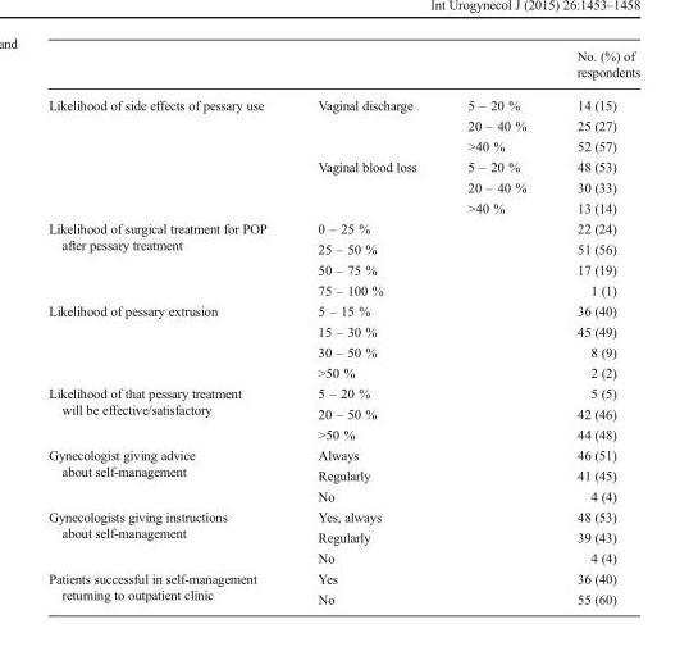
<table><thead><tr><td></td><td></td><td></td><td>No. (%) of respondents</td></tr></thead><tbody><tr><td rowspan="6">Likelihood of side effects of pessary use</td><td rowspan="3">Vaginal discharge</td><td>5 – 20 %</td><td>14 (15)</td></tr><tr><td>20 – 40 %</td><td>25 (27)</td></tr><tr><td>&gt;40 %</td><td>52 (57)</td></tr><tr><td rowspan="3">Vaginal blood loss</td><td>5 – 20 %</td><td>48 (53)</td></tr><tr><td>20 – 40 %</td><td>30 (33)</td></tr><tr><td>&gt;40 %</td><td>13 (14)</td></tr><tr><td rowspan="4">Likelihood of surgical treatment for POP after pessary treatment</td><td colspan="2">0 – 25 %</td><td>22 (24)</td></tr><tr><td colspan="2">25 – 50 %</td><td>51 (56)</td></tr><tr><td colspan="2">50 – 75 %</td><td>17 (19)</td></tr><tr><td colspan="2">75 – 100 %</td><td>1 (1)</td></tr><tr><td rowspan="4">Likelihood of pessary extrusion</td><td colspan="2">5 – 15 %</td><td>36 (40)</td></tr><tr><td colspan="2">15 – 30 %</td><td>45 (49)</td></tr><tr><td colspan="2">30 – 50 %</td><td>8 (9)</td></tr><tr><td colspan="2">&gt;50 %</td><td>2 (2)</td></tr><tr><td rowspan="3">Likelihood of that pessary treatment will be effective/satisfactory</td><td colspan="2">5 – 20 %</td><td>5 (5)</td></tr><tr><td colspan="2">20 – 50 %</td><td>42 (46)</td></tr><tr><td colspan="2">&gt;50 %</td><td>44 (48)</td></tr><tr><td rowspan="3">Gynecologist giving advice about self-management</td><td colspan="2">Always</td><td>46 (51)</td></tr><tr><td colspan="2">Regularly</td><td>41 (45)</td></tr><tr><td colspan="2">No</td><td>4 (4)</td></tr><tr><td rowspan="3">Gynecologists giving instructions about self-management</td><td colspan="2">Yes, always</td><td>48 (53)</td></tr><tr><td colspan="2">Regularly</td><td>39 (43)</td></tr><tr><td colspan="2">No</td><td>4 (4)</td></tr><tr><td rowspan="2">Patients successful in self-management returning to outpatient clinic</td><td colspan="2">Yes</td><td>36 (40)</td></tr><tr><td colspan="2">No</td><td>55 (60)</td></tr></tbody></table>